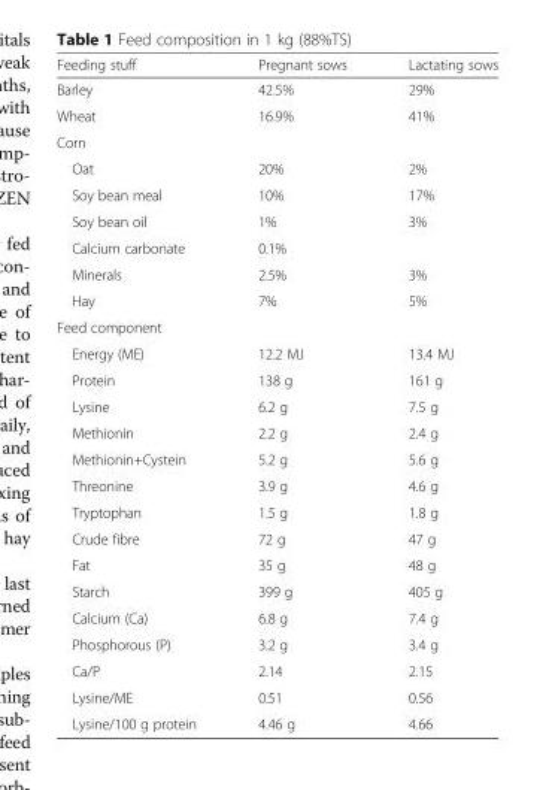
<table><thead><tr><td>Feeding stuff</td><td>Pregnant sows</td><td>Lactating sows</td></tr></thead><tbody><tr><td>Barley</td><td>42.5%</td><td>29%</td></tr><tr><td>Wheat</td><td>16.9%</td><td>41%</td></tr><tr><td colspan="3">Corn</td></tr><tr><td>Oat</td><td>20%</td><td>2%</td></tr><tr><td>Soy bean meal</td><td>10%</td><td>17%</td></tr><tr><td>Soy bean oil</td><td>1%</td><td>3%</td></tr><tr><td>Calcium carbonate</td><td>0.1%</td><td></td></tr><tr><td>Minerals</td><td>2.5%</td><td>3%</td></tr><tr><td>Hay</td><td>7%</td><td>5%</td></tr><tr><td colspan="3">Feed component</td></tr><tr><td>Energy (ME)</td><td>12.2 MJ</td><td>13.4 MJ</td></tr><tr><td>Protein</td><td>138 g</td><td>161 g</td></tr><tr><td>Lysine</td><td>6.2 g</td><td>7.5 g</td></tr><tr><td>Methionin</td><td>2.2 g</td><td>2.4 g</td></tr><tr><td>Methionin+Cystein</td><td>5.2 g</td><td>5.6 g</td></tr><tr><td>Threonine</td><td>3.9 g</td><td>4.6 g</td></tr><tr><td>Tryptophan</td><td>1.5 g</td><td>1.8 g</td></tr><tr><td>Crude fibre</td><td>72 g</td><td>47 g</td></tr><tr><td>Fat</td><td>35 g</td><td>48 g</td></tr><tr><td>Starch</td><td>399 g</td><td>405 g</td></tr><tr><td>Calcium (Ca)</td><td>6.8 g</td><td>7.4 g</td></tr><tr><td>Phosphorous (P)</td><td>3.2 g</td><td>3.4 g</td></tr><tr><td>Ca/P</td><td>2.14</td><td>2.15</td></tr><tr><td>Lysine/ME</td><td>0.51</td><td>0.56</td></tr><tr><td>Lysine/100 g protein</td><td>4.46 g</td><td>4.66</td></tr></tbody></table>